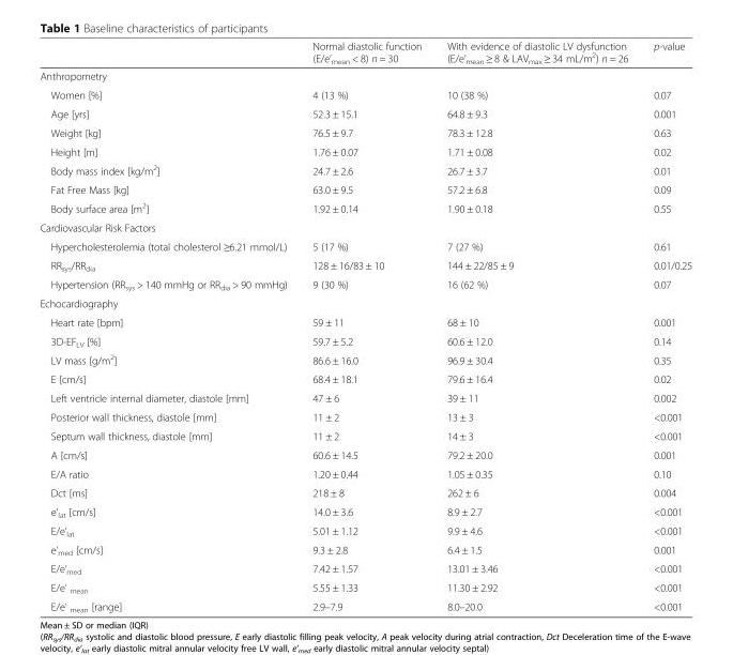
<table><thead><tr><td></td><td>Normal diastolic function (E/e’<sub>mean</sub> &lt; 8) n = 30</td><td>With evidence of diastolic LV dysfunction (E/e’<sub>mean</sub> ≥ 8 &amp; LAV<sub>max</sub> ≥ 34 mL/m<sup>2</sup>) n = 26</td><td>p-value</td></tr></thead><tbody><tr><td colspan="4">Anthropometry</td></tr><tr><td>Women [%]</td><td>4 (13 %)</td><td>10 (38 %)</td><td>0.07</td></tr><tr><td>Age [yrs]</td><td>52.3 ± 15.1</td><td>64.8 ± 9.3</td><td>0.001</td></tr><tr><td>Weight [kg]</td><td>76.5 ± 9.7</td><td>78.3 ± 12.8</td><td>0.63</td></tr><tr><td>Height [m]</td><td>1.76 ± 0.07</td><td>1.71 ± 0.08</td><td>0.02</td></tr><tr><td>Body mass index [kg/m<sup>2</sup>]</td><td>24.7 ± 2.6</td><td>26.7 ± 3.7</td><td>0.01</td></tr><tr><td>Fat Free Mass [kg]</td><td>63.0 ± 9.5</td><td>57.2 ± 6.8</td><td>0.09</td></tr><tr><td>Body surface area [m<sup>2</sup>]</td><td>1.92 ± 0.14</td><td>1.90 ± 0.18</td><td>0.55</td></tr><tr><td colspan="4">Cardiovascular Risk Factors</td></tr><tr><td>Hypercholesterolemia (total cholesterol ≥6.21 mmol/L)</td><td>5 (17 %)</td><td>7 (27 %)</td><td>0.61</td></tr><tr><td>RR<sub>sys</sub>/RR<sub>dia</sub></td><td>128 ± 16/83 ± 10</td><td>144 ± 22/85 ± 9</td><td>0.01/0.25</td></tr><tr><td>Hypertension (RR<sub>sys</sub> &gt; 140 mmHg or RR<sub>dia</sub> &gt; 90 mmHg)</td><td>9 (30 %)</td><td>16 (62 %)</td><td>0.07</td></tr><tr><td colspan="4">Echocardiography</td></tr><tr><td>Heart rate [bpm]</td><td>59 ± 11</td><td>68 ± 10</td><td>0.001</td></tr><tr><td>3D-EF<sub>LV</sub> [%]</td><td>59.7 ± 5.2</td><td>60.6 ± 12.0</td><td>0.14</td></tr><tr><td>LV mass [g/m<sup>2</sup>]</td><td>86.6 ± 16.0</td><td>96.9 ± 30.4</td><td>0.35</td></tr><tr><td>E [cm/s]</td><td>68.4 ± 18.1</td><td>79.6 ± 16.4</td><td>0.02</td></tr><tr><td>Left ventricle internal diameter, diastole [mm]</td><td>47 ± 6</td><td>39 ± 11</td><td>0.002</td></tr><tr><td>Posterior wall thickness, diastole [mm]</td><td>11 ± 2</td><td>13 ± 3</td><td>&lt;0.001</td></tr><tr><td>Septum wall thickness, diastole [mm]</td><td>11 ± 2</td><td>14 ± 3</td><td>&lt;0.001</td></tr><tr><td>A [cm/s]</td><td>60.6 ± 14.5</td><td>79.2 ± 20.0</td><td>0.001</td></tr><tr><td>E/A ratio</td><td>1.20 ± 0.44</td><td>1.05 ± 0.35</td><td>0.10</td></tr><tr><td>Dct [ms]</td><td>218 ± 8</td><td>262 ± 6</td><td>0.004</td></tr><tr><td>e’<sub>lat</sub> [cm/s]</td><td>14.0 ± 3.6</td><td>8.9 ± 2.7</td><td>&lt;0.001</td></tr><tr><td>E/e’<sub>lat</sub></td><td>5.01 ± 1.12</td><td>9.9 ± 4.6</td><td>&lt;0.001</td></tr><tr><td>e’<sub>med</sub> [cm/s]</td><td>9.3 ± 2.8</td><td>6.4 ± 1.5</td><td>0.001</td></tr><tr><td>E/e’<sub>med</sub></td><td>7.42 ± 1.57</td><td>13.01 ± 3.46</td><td>&lt;0.001</td></tr><tr><td>E/e’ <sub>mean</sub></td><td>5.55 ± 1.33</td><td>11.30 ± 2.92</td><td>&lt;0.001</td></tr><tr><td>E/e’ <sub>mean</sub> [range]</td><td>2.9–7.9</td><td>8.0–20.0</td><td>&lt;0.001</td></tr></tbody></table>